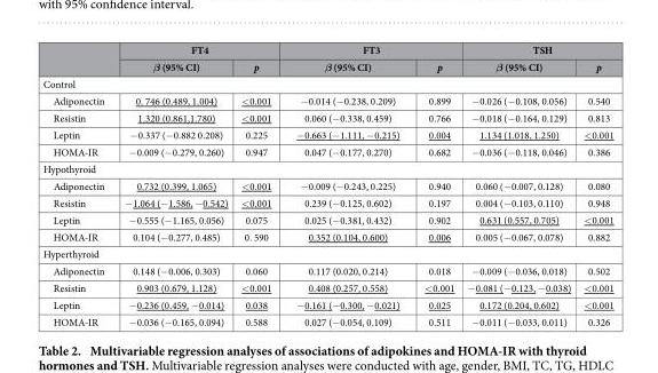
<table><thead><tr><td rowspan="2"></td><td colspan="2">FT4</td><td colspan="2">FT3</td><td colspan="2">TSH</td></tr><tr><td>β (95% CI)</td><td>p</td><td>β (95% CI)</td><td>p</td><td>β (95% CI)</td><td>p</td></tr></thead><tbody><tr><td colspan="7">Control</td></tr><tr><td>Adiponectin</td><td>0. 746 (0.489, 1.004)</td><td>&lt;0.001</td><td>− 0.014 (− 0.238, 0.209)</td><td>0.899</td><td>− 0.026 (− 0.108, 0.056)</td><td>0.540</td></tr><tr><td>Resistin</td><td>1.320 (0.861,1.780)</td><td>&lt;0.001</td><td>0.060 (− 0.338, 0.459)</td><td>0.766</td><td>− 0.018 (− 0.164, 0.129)</td><td>0.813</td></tr><tr><td>Leptin</td><td>− 0.337 (− 0.882 0.208)</td><td>0.225</td><td>−0.663 (−1.111, −0.215)</td><td>0.004</td><td>1.134 (1.018, 1.250)</td><td>&lt;0.001</td></tr><tr><td>HOMA-IR</td><td>− 0.009 (− 0.279, 0.260)</td><td>0.947</td><td>0.047 (− 0.177, 0.270)</td><td>0.682</td><td>− 0.036 (− 0.118, 0.046)</td><td>0.386</td></tr><tr><td colspan="7">Hypothyroid</td></tr><tr><td>Adiponectin</td><td>0.732 (0.399, 1.065)</td><td>&lt;0.001</td><td>− 0.009 (− 0.243, 0.225)</td><td>0.940</td><td>0.060 (− 0.007, 0.128)</td><td>0.080</td></tr><tr><td>Resistin</td><td>− 1.064 (− 1.586, − 0.542)</td><td>&lt;0.001</td><td>0.239 (− 0.125, 0.602)</td><td>0.197</td><td>0.004 (− 0.103, 0.110)</td><td>0.948</td></tr><tr><td>Leptin</td><td>− 0.555 (− 1.165, 0.056)</td><td>0.075</td><td>0.025 (− 0.381, 0.432)</td><td>0.902</td><td>0.631 (0.557, 0.705)</td><td>&lt;0.001</td></tr><tr><td>HOMA-IR</td><td>0.104 (− 0.277, 0.485)</td><td>0. 590</td><td>0.352 (0.104, 0.600)</td><td>0.006</td><td>0.005 (− 0.067, 0.078)</td><td>0.882</td></tr><tr><td colspan="7">Hyperthyroid</td></tr><tr><td>Adiponectin</td><td>0.148 (− 0.006, 0.303)</td><td>0.060</td><td>0.117 (0.020, 0.214)</td><td>0.018</td><td>− 0.009 (− 0.036, 0.018)</td><td>0.502</td></tr><tr><td>Resistin</td><td>0.903 (0.679, 1.128)</td><td>&lt;0.001</td><td>0.408 (0.257, 0.558)</td><td>&lt;0.001</td><td>− 0.081 (− 0.123, − 0.038)</td><td>&lt;0.001</td></tr><tr><td>Leptin</td><td>− 0.236 (0.459, − 0.014)</td><td>0.038</td><td>− 0.161 (− 0.300, − 0.021)</td><td>0.025</td><td>0.172 (0.204, 0.602)</td><td>&lt;0.001</td></tr><tr><td>HOMA-IR</td><td>− 0.036 (− 0.165, 0.094)</td><td>0.588</td><td>0.027 (− 0.054, 0.109)</td><td>0.511</td><td>− 0.011 (− 0.033, 0.011)</td><td>0.326</td></tr></tbody></table>